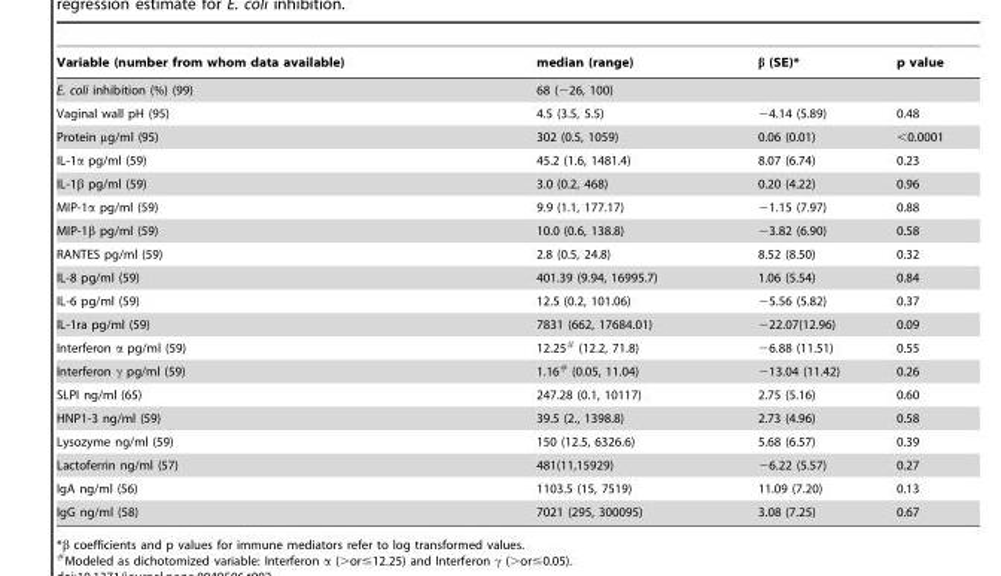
<table><thead><tr><td>Variable (number from whom data available)</td><td>median (range)</td><td>β (SE)*</td><td>p value</td></tr></thead><tbody><tr><td>E. coli inhibition (%) (99)</td><td>68 (−26, 100)</td><td></td><td></td></tr><tr><td>Vaginal wall pH (95)</td><td>4.5 (3.5, 5.5)</td><td>−4.14 (5.89)</td><td>0.48</td></tr><tr><td>Protein µg/ml (95)</td><td>302 (0.5, 1059)</td><td>0.06 (0.01)</td><td>&lt;0.0001</td></tr><tr><td>IL-1α pg/ml (59)</td><td>45.2 (1.6, 1481.4)</td><td>8.07 (6.74)</td><td>0.23</td></tr><tr><td>IL-1β pg/ml (59)</td><td>3.0 (0.2, 468)</td><td>0.20 (4.22)</td><td>0.96</td></tr><tr><td>MIP-1α pg/ml (59)</td><td>9.9 (1.1, 177.17)</td><td>−1.15 (7.97)</td><td>0.88</td></tr><tr><td>MIP-1β pg/ml (59)</td><td>10.0 (0.6, 138.8)</td><td>−3.82 (6.90)</td><td>0.58</td></tr><tr><td>RANTES pg/ml (59)</td><td>2.8 (0.5, 24.8)</td><td>8.52 (8.50)</td><td>0.32</td></tr><tr><td>IL-8 pg/ml (59)</td><td>401.39 (9.94, 16995.7)</td><td>1.06 (5.54)</td><td>0.84</td></tr><tr><td>IL-6 pg/ml (59)</td><td>12.5 (0.2, 101.06)</td><td>−5.56 (5.82)</td><td>0.37</td></tr><tr><td>IL-1ra pg/ml (59)</td><td>7831 (662, 17684.01)</td><td>−22.07(12.96)</td><td>0.09</td></tr><tr><td>Interferon α pg/ml (59)</td><td>12.25# (12.2, 71.8)</td><td>−6.88 (11.51)</td><td>0.55</td></tr><tr><td>Interferon γ pg/ml (59)</td><td>1.16# (0.05, 11.04)</td><td>−13.04 (11.42)</td><td>0.26</td></tr><tr><td>SLPI ng/ml (65)</td><td>247.28 (0.1, 10117)</td><td>2.75 (5.16)</td><td>0.60</td></tr><tr><td>HNP1-3 ng/ml (59)</td><td>39.5 (2., 1398.8)</td><td>2.73 (4.96)</td><td>0.58</td></tr><tr><td>Lysozyme ng/ml (59)</td><td>150 (12.5, 6326.6)</td><td>5.68 (6.57)</td><td>0.39</td></tr><tr><td>Lactoferrin ng/ml (57)</td><td>481(11,15929)</td><td>−6.22 (5.57)</td><td>0.27</td></tr><tr><td>IgA ng/ml (56)</td><td>1103.5 (15, 7519)</td><td>11.09 (7.20)</td><td>0.13</td></tr><tr><td>IgG ng/ml (58)</td><td>7021 (295, 300095)</td><td>3.08 (7.25)</td><td>0.67</td></tr></tbody></table>